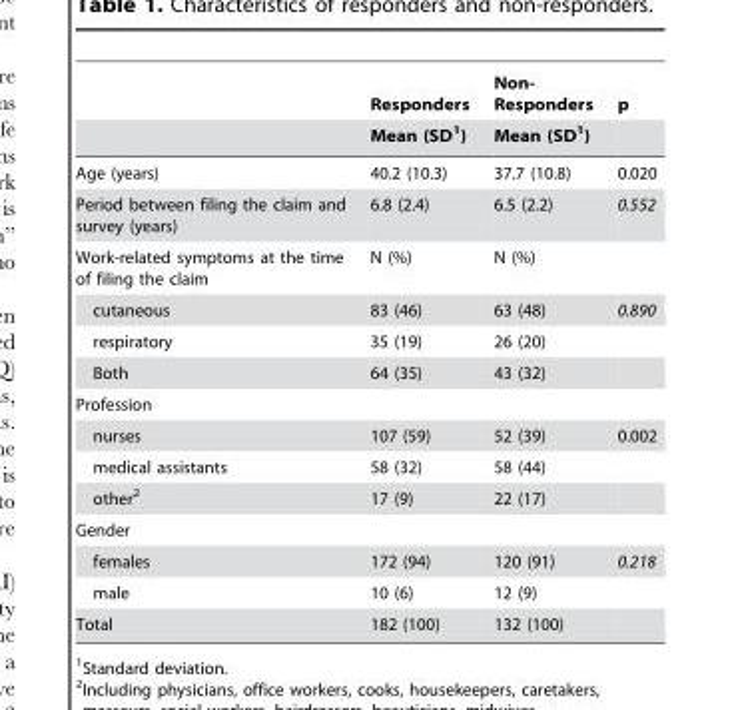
<table><thead><tr><td rowspan="2"></td><td rowspan="2">Responders Mean (SD<sup>1</sup>)</td><td rowspan="2">Non- Responders Mean (SD<sup>1</sup>)</td><td rowspan="2">p</td></tr><tr></tr></thead><tbody><tr><td>Age (years)</td><td>40.2 (10.3)</td><td>37.7 (10.8)</td><td>0.020</td></tr><tr><td>Period between filing the claim and survey (years)</td><td>6.8 (2.4)</td><td>6.5 (2.2)</td><td>0.552</td></tr><tr><td>Work-related symptoms at the time of filing the claim</td><td>N (%)</td><td>N (%)</td><td></td></tr><tr><td>cutaneous</td><td>83 (46)</td><td>63 (48)</td><td>0.890</td></tr><tr><td>respiratory</td><td>35 (19)</td><td>26 (20)</td><td></td></tr><tr><td>Both</td><td>64 (35)</td><td>43 (32)</td><td></td></tr><tr><td colspan="4">Profession</td></tr><tr><td>nurses</td><td>107 (59)</td><td>52 (39)</td><td>0.002</td></tr><tr><td>medical assistants</td><td>58 (32)</td><td>58 (44)</td><td></td></tr><tr><td>other<sup>2</sup></td><td>17 (9)</td><td>22 (17)</td><td></td></tr><tr><td colspan="4">Gender</td></tr><tr><td>females</td><td>172 (94)</td><td>120 (91)</td><td>0.218</td></tr><tr><td>male</td><td>10 (6)</td><td>12 (9)</td><td></td></tr><tr><td>Total</td><td>182 (100)</td><td>132 (100)</td><td></td></tr></tbody></table>